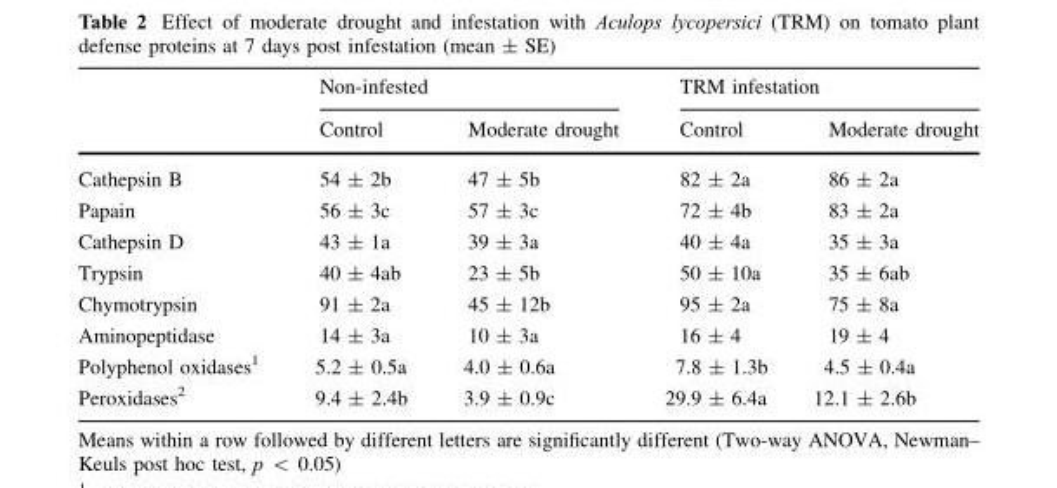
<table><thead><tr><td rowspan="2"></td><td colspan="2">Non-infested</td><td colspan="2">TRM infestation</td></tr><tr><td>Control</td><td>Moderate drought</td><td>Control</td><td>Moderate drought</td></tr></thead><tbody><tr><td>Cathepsin B</td><td>54 ± 2b</td><td>47 ± 5b</td><td>82 ± 2a</td><td>86 ± 2a</td></tr><tr><td>Papain</td><td>56 ± 3c</td><td>57 ± 3c</td><td>72 ± 4b</td><td>83 ± 2a</td></tr><tr><td>Cathepsin D</td><td>43 ± 1a</td><td>39 ± 3a</td><td>40 ± 4a</td><td>35 ± 3a</td></tr><tr><td>Trypsin</td><td>40 ± 4ab</td><td>23 ± 5b</td><td>50 ± 10a</td><td>35 ± 6ab</td></tr><tr><td>Chymotrypsin</td><td>91 ± 2a</td><td>45 ± 12b</td><td>95 ± 2a</td><td>75 ± 8a</td></tr><tr><td>Aminopeptidase</td><td>14 ± 3a</td><td>10 ± 3a</td><td>16 ± 4</td><td>19 ± 4</td></tr><tr><td>Polyphenol oxidases<sup>1</sup></td><td>5.2 ± 0.5a</td><td>4.0 ± 0.6a</td><td>7.8 ± 1.3b</td><td>4.5 ± 0.4a</td></tr><tr><td>Peroxidases<sup>2</sup></td><td>9.4 ± 2.4b</td><td>3.9 ± 0.9c</td><td>29.9 ± 6.4a</td><td>12.1 ± 2.6b</td></tr></tbody></table>